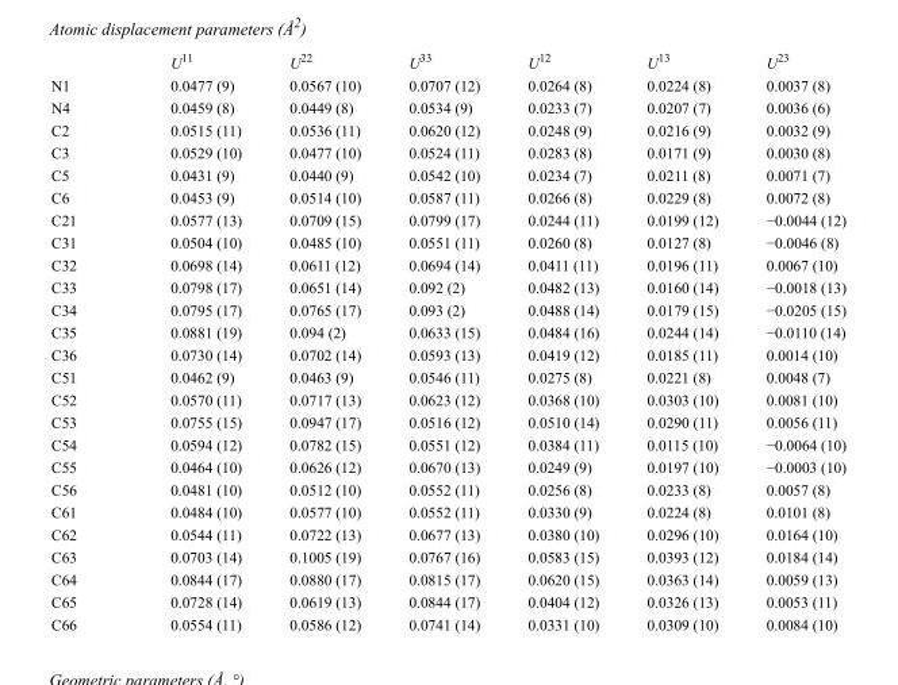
<table><thead><tr><td></td><td>U<sup>11</sup></td><td>U<sup>22</sup></td><td>U<sup>33</sup></td><td>U<sup>12</sup></td><td>U<sup>13</sup></td><td>U<sup>23</sup></td></tr></thead><tbody><tr><td>N1</td><td>0.0477 (9)</td><td>0.0567 (10)</td><td>0.0707 (12)</td><td>0.0264 (8)</td><td>0.0224 (8)</td><td>0.0037 (8)</td></tr><tr><td>N4</td><td>0.0459 (8)</td><td>0.0449 (8)</td><td>0.0534 (9)</td><td>0.0233 (7)</td><td>0.0207 (7)</td><td>0.0036 (6)</td></tr><tr><td>C2</td><td>0.0515 (11)</td><td>0.0536 (11)</td><td>0.0620 (12)</td><td>0.0248 (9)</td><td>0.0216 (9)</td><td>0.0032 (9)</td></tr><tr><td>C3</td><td>0.0529 (10)</td><td>0.0477 (10)</td><td>0.0524 (11)</td><td>0.0283 (8)</td><td>0.0171 (9)</td><td>0.0030 (8)</td></tr><tr><td>C5</td><td>0.0431 (9)</td><td>0.0440 (9)</td><td>0.0542 (10)</td><td>0.0234 (7)</td><td>0.0211 (8)</td><td>0.0071 (7)</td></tr><tr><td>C6</td><td>0.0453 (9)</td><td>0.0514 (10)</td><td>0.0587 (11)</td><td>0.0266 (8)</td><td>0.0229 (8)</td><td>0.0072 (8)</td></tr><tr><td>C21</td><td>0.0577 (13)</td><td>0.0709 (15)</td><td>0.0799 (17)</td><td>0.0244 (11)</td><td>0.0199 (12)</td><td>−0.0044 (12)</td></tr><tr><td>C31</td><td>0.0504 (10)</td><td>0.0485 (10)</td><td>0.0551 (11)</td><td>0.0260 (8)</td><td>0.0127 (8)</td><td>−0.0046 (8)</td></tr><tr><td>C32</td><td>0.0698 (14)</td><td>0.0611 (12)</td><td>0.0694 (14)</td><td>0.0411 (11)</td><td>0.0196 (11)</td><td>0.0067 (10)</td></tr><tr><td>C33</td><td>0.0798 (17)</td><td>0.0651 (14)</td><td>0.092 (2)</td><td>0.0482 (13)</td><td>0.0160 (14)</td><td>−0.0018 (13)</td></tr><tr><td>C34</td><td>0.0795 (17)</td><td>0.0765 (17)</td><td>0.093 (2)</td><td>0.0488 (14)</td><td>0.0179 (15)</td><td>−0.0205 (15)</td></tr><tr><td>C35</td><td>0.0881 (19)</td><td>0.094 (2)</td><td>0.0633 (15)</td><td>0.0484 (16)</td><td>0.0244 (14)</td><td>−0.0110 (14)</td></tr><tr><td>C36</td><td>0.0730 (14)</td><td>0.0702 (14)</td><td>0.0593 (13)</td><td>0.0419 (12)</td><td>0.0185 (11)</td><td>0.0014 (10)</td></tr><tr><td>C51</td><td>0.0462 (9)</td><td>0.0463 (9)</td><td>0.0546 (11)</td><td>0.0275 (8)</td><td>0.0221 (8)</td><td>0.0048 (7)</td></tr><tr><td>C52</td><td>0.0570 (11)</td><td>0.0717 (13)</td><td>0.0623 (12)</td><td>0.0368 (10)</td><td>0.0303 (10)</td><td>0.0081 (10)</td></tr><tr><td>C53</td><td>0.0755 (15)</td><td>0.0947 (17)</td><td>0.0516 (12)</td><td>0.0510 (14)</td><td>0.0290 (11)</td><td>0.0056 (11)</td></tr><tr><td>C54</td><td>0.0594 (12)</td><td>0.0782 (15)</td><td>0.0551 (12)</td><td>0.0384 (11)</td><td>0.0115 (10)</td><td>−0.0064 (10)</td></tr><tr><td>C55</td><td>0.0464 (10)</td><td>0.0626 (12)</td><td>0.0670 (13)</td><td>0.0249 (9)</td><td>0.0197 (10)</td><td>−0.0003 (10)</td></tr><tr><td>C56</td><td>0.0481 (10)</td><td>0.0512 (10)</td><td>0.0552 (11)</td><td>0.0256 (8)</td><td>0.0233 (8)</td><td>0.0057 (8)</td></tr><tr><td>C61</td><td>0.0484 (10)</td><td>0.0577 (10)</td><td>0.0552 (11)</td><td>0.0330 (9)</td><td>0.0224 (8)</td><td>0.0101 (8)</td></tr><tr><td>C62</td><td>0.0544 (11)</td><td>0.0722 (13)</td><td>0.0677 (13)</td><td>0.0380 (10)</td><td>0.0296 (10)</td><td>0.0164 (10)</td></tr><tr><td>C63</td><td>0.0703 (14)</td><td>0.1005 (19)</td><td>0.0767 (16)</td><td>0.0583 (15)</td><td>0.0393 (12)</td><td>0.0184 (14)</td></tr><tr><td>C64</td><td>0.0844 (17)</td><td>0.0880 (17)</td><td>0.0815 (17)</td><td>0.0620 (15)</td><td>0.0363 (14)</td><td>0.0059 (13)</td></tr><tr><td>C65</td><td>0.0728 (14)</td><td>0.0619 (13)</td><td>0.0844 (17)</td><td>0.0404 (12)</td><td>0.0326 (13)</td><td>0.0053 (11)</td></tr><tr><td>C66</td><td>0.0554 (11)</td><td>0.0586 (12)</td><td>0.0741 (14)</td><td>0.0331 (10)</td><td>0.0309 (10)</td><td>0.0084 (10)</td></tr></tbody></table>